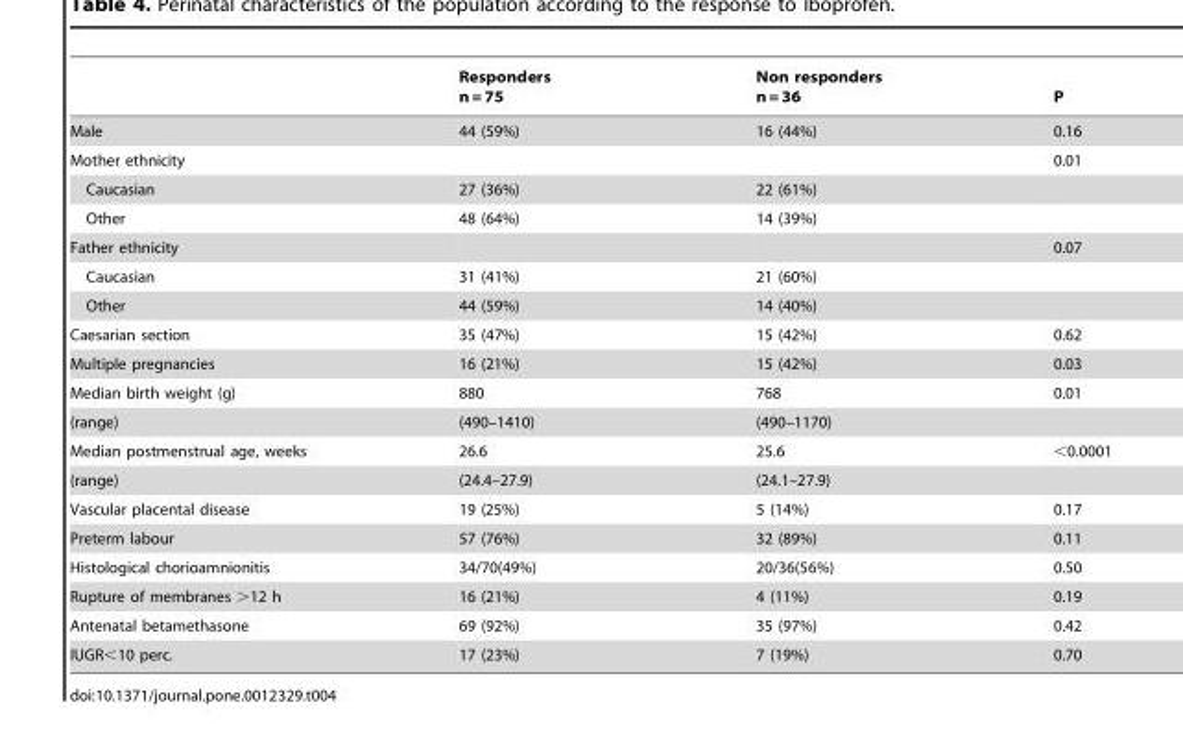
<table><thead><tr><td></td><td>Responders n = 75</td><td>Non responders n = 36</td><td>P</td></tr></thead><tbody><tr><td>Male</td><td>44 (59%)</td><td>16 (44%)</td><td>0.16</td></tr><tr><td>Mother ethnicity</td><td></td><td></td><td>0.01</td></tr><tr><td>Caucasian</td><td>27 (36%)</td><td>22 (61%)</td><td></td></tr><tr><td>Other</td><td>48 (64%)</td><td>14 (39%)</td><td></td></tr><tr><td>Father ethnicity</td><td></td><td></td><td>0.07</td></tr><tr><td>Caucasian</td><td>31 (41%)</td><td>21 (60%)</td><td></td></tr><tr><td>Other</td><td>44 (59%)</td><td>14 (40%)</td><td></td></tr><tr><td>Caesarian section</td><td>35 (47%)</td><td>15 (42%)</td><td>0.62</td></tr><tr><td>Multiple pregnancies</td><td>16 (21%)</td><td>15 (42%)</td><td>0.03</td></tr><tr><td>Median birth weight (g)</td><td>880</td><td>768</td><td>0.01</td></tr><tr><td>(range)</td><td>(490–1410)</td><td>(490–1170)</td><td></td></tr><tr><td>Median postmenstrual age, weeks</td><td>26.6</td><td>25.6</td><td>&lt;0.0001</td></tr><tr><td>(range)</td><td>(24.4–27.9)</td><td>(24.1–27.9)</td><td></td></tr><tr><td>Vascular placental disease</td><td>19 (25%)</td><td>5 (14%)</td><td>0.17</td></tr><tr><td>Preterm labour</td><td>57 (76%)</td><td>32 (89%)</td><td>0.11</td></tr><tr><td>Histological chorioamnionitis</td><td>34/70(49%)</td><td>20/36(56%)</td><td>0.50</td></tr><tr><td>Rupture of membranes &gt;12 h</td><td>16 (21%)</td><td>4 (11%)</td><td>0.19</td></tr><tr><td>Antenatal betamethasone</td><td>69 (92%)</td><td>35 (97%)</td><td>0.42</td></tr><tr><td>IUGR&lt;10 perc.</td><td>17 (23%)</td><td>7 (19%)</td><td>0.70</td></tr></tbody></table>